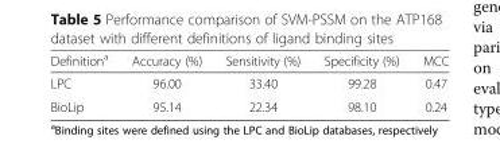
<table><thead><tr><td>Definition<sup>a</sup></td><td>Accuracy (%)</td><td>Sensitivity (%)</td><td>Specificity (%)</td><td>MCC</td></tr></thead><tbody><tr><td>LPC</td><td>96.00</td><td>33.40</td><td>99.28</td><td>0.47</td></tr><tr><td>BioLip</td><td>95.14</td><td>22.34</td><td>98.10</td><td>0.24</td></tr></tbody></table>